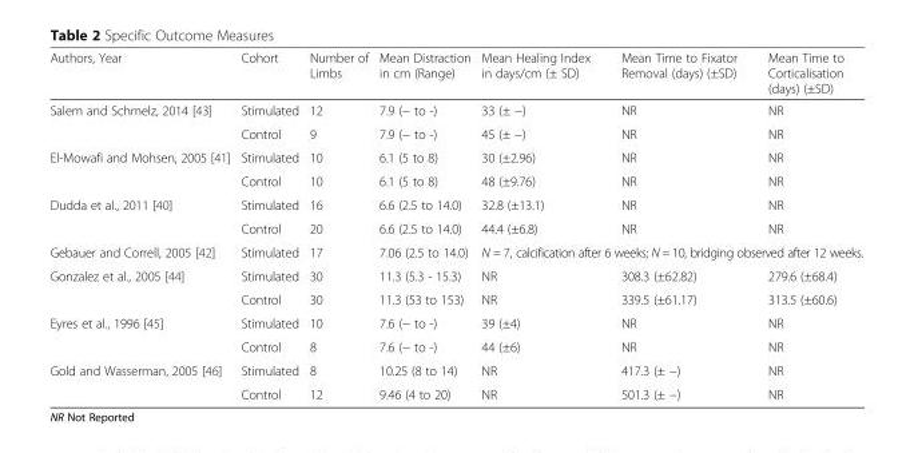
<table><thead><tr><td>Authors, Year</td><td>Cohort</td><td>Number of Limbs</td><td>Mean Distraction in cm (Range)</td><td>Mean Healing Index in days/cm (± SD)</td><td>Mean Time to Fixator Removal (days) (±SD)</td><td>Mean Time to Corticalisation (days) (±SD)</td></tr></thead><tbody><tr><td rowspan="2">Salem and Schmelz, 2014 [43]</td><td>Stimulated</td><td>12</td><td>7.9 (− to -)</td><td>33 (± −)</td><td>NR</td><td>NR</td></tr><tr><td>Control</td><td>9</td><td>7.9 (− to -)</td><td>45 (± −)</td><td>NR</td><td>NR</td></tr><tr><td rowspan="2">El-Mowafi and Mohsen, 2005 [41]</td><td>Stimulated</td><td>10</td><td>6.1 (5 to 8)</td><td>30 (±2.96)</td><td>NR</td><td>NR</td></tr><tr><td>Control</td><td>10</td><td>6.1 (5 to 8)</td><td>48 (±9.76)</td><td>NR</td><td>NR</td></tr><tr><td rowspan="2">Dudda et al., 2011 [40]</td><td>Stimulated</td><td>16</td><td>6.6 (2.5 to 14.0)</td><td>32.8 (±13.1)</td><td>NR</td><td>NR</td></tr><tr><td>Control</td><td>20</td><td>6.6 (2.5 to 14.0)</td><td>44.4 (±6.8)</td><td>NR</td><td>NR</td></tr><tr><td>Gebauer and Correll, 2005 [42]</td><td>Stimulated</td><td>17</td><td>7.06 (2.5 to 14.0)</td><td colspan="3">N = 7, calcification after 6 weeks; N = 10, bridging observed after 12 weeks.</td></tr><tr><td rowspan="2">Gonzalez et al., 2005 [44]</td><td>Stimulated</td><td>30</td><td>11.3 (5.3 - 15.3)</td><td>NR</td><td>308.3 (±62.82)</td><td>279.6 (±68.4)</td></tr><tr><td>Control</td><td>30</td><td>11.3 (53 to 153)</td><td>NR</td><td>339.5 (±61.17)</td><td>313.5 (±60.6)</td></tr><tr><td rowspan="2">Eyres et al., 1996 [45]</td><td>Stimulated</td><td>10</td><td>7.6 (− to -)</td><td>39 (±4)</td><td>NR</td><td>NR</td></tr><tr><td>Control</td><td>8</td><td>7.6 (− to -)</td><td>44 (±6)</td><td>NR</td><td>NR</td></tr><tr><td rowspan="2">Gold and Wasserman, 2005 [46]</td><td>Stimulated</td><td>8</td><td>10.25 (8 to 14)</td><td>NR</td><td>417.3 (± −)</td><td>NR</td></tr><tr><td>Control</td><td>12</td><td>9.46 (4 to 20)</td><td>NR</td><td>501.3 (± −)</td><td>NR</td></tr></tbody></table>